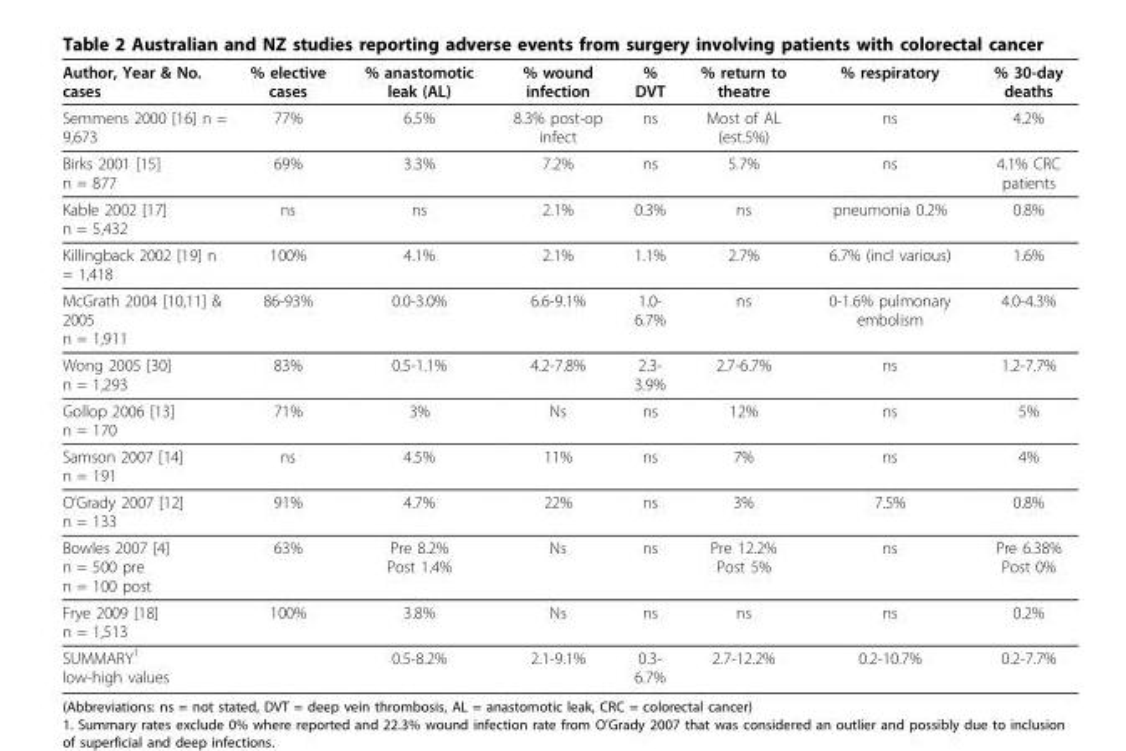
<table><thead><tr><td>Author, Year &amp; No. cases</td><td>% elective cases</td><td>% anastomotic leak (AL)</td><td>% wound infection</td><td>% DVT</td><td>% return to theatre</td><td>% respiratory</td><td>% 30-day deaths</td></tr></thead><tbody><tr><td>Semmens 2000 [16] n = 9,673</td><td>77%</td><td>6.5%</td><td>8.3% post-op infect</td><td>ns</td><td>Most of AL (est.5%)</td><td>ns</td><td>4.2%</td></tr><tr><td>Birks 2001 [15] n = 877</td><td>69%</td><td>3.3%</td><td>7.2%</td><td>ns</td><td>5.7%</td><td>ns</td><td>4.1% CRC patients</td></tr><tr><td>Kable 2002 [17] n = 5,432</td><td>ns</td><td>ns</td><td>2.1%</td><td>0.3%</td><td>ns</td><td>pneumonia 0.2%</td><td>0.8%</td></tr><tr><td>Killingback 2002 [19] n = 1,418</td><td>100%</td><td>4.1%</td><td>2.1%</td><td>1.1%</td><td>2.7%</td><td>6.7% (incl various)</td><td>1.6%</td></tr><tr><td>McGrath 2004 [10,11] &amp; 2005 n = 1,911</td><td>86-93%</td><td>0.0-3.0%</td><td>6.6-9.1%</td><td>1.0- 6.7%</td><td>ns</td><td>0-1.6% pulmonary embolism</td><td>4.0-4.3%</td></tr><tr><td>Wong 2005 [30] n = 1,293</td><td>83%</td><td>0.5-1.1%</td><td>4.2-7.8%</td><td>2.3- 3.9%</td><td>2.7-6.7%</td><td>ns</td><td>1.2-7.7%</td></tr><tr><td>Gollop 2006 [13] n = 170</td><td>71%</td><td>3%</td><td>Ns</td><td>ns</td><td>12%</td><td>ns</td><td>5%</td></tr><tr><td>Samson 2007 [14] n = 191</td><td>ns</td><td>4.5%</td><td>11%</td><td>ns</td><td>7%</td><td>ns</td><td>4%</td></tr><tr><td>O’Grady 2007 [12] n = 133</td><td>91%</td><td>4.7%</td><td>22%</td><td>ns</td><td>3%</td><td>7.5%</td><td>0.8%</td></tr><tr><td>Bowles 2007 [4] n = 500 pre n = 100 post</td><td>63%</td><td>Pre 8.2% Post 1.4%</td><td>Ns</td><td>ns</td><td>Pre 12.2% Post 5%</td><td>ns</td><td>Pre 6.38% Post 0%</td></tr><tr><td>Frye 2009 [18] n = 1,513</td><td>100%</td><td>3.8%</td><td>Ns</td><td>ns</td><td>ns</td><td>ns</td><td>0.2%</td></tr><tr><td>SUMMARY<sup>1</sup> low-high values</td><td></td><td>0.5-8.2%</td><td>2.1-9.1%</td><td>0.3- 6.7%</td><td>2.7-12.2%</td><td>0.2-10.7%</td><td>0.2-7.7%</td></tr></tbody></table>